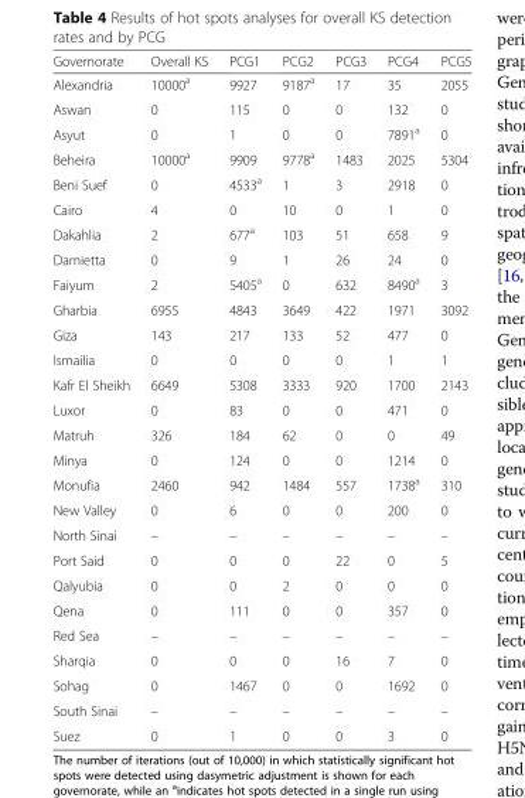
<table><thead><tr><td>Governorate</td><td>Overall KS</td><td>PCG1</td><td>PCG2</td><td>PCG3</td><td>PCG4</td><td>PCG5</td></tr></thead><tbody><tr><td>Alexandria</td><td>10000<sup>a</sup></td><td>9927</td><td>9187<sup>a</sup></td><td>17</td><td>35</td><td>2055</td></tr><tr><td>Aswan</td><td>0</td><td>115</td><td>0</td><td>0</td><td>132</td><td>0</td></tr><tr><td>Asyut</td><td>0</td><td>1</td><td>0</td><td>0</td><td>7891<sup>a</sup></td><td>0</td></tr><tr><td>Beheira</td><td>10000<sup>a</sup></td><td>9909</td><td>9778<sup>a</sup></td><td>1483</td><td>2025</td><td>5304</td></tr><tr><td>Beni Suef</td><td>0</td><td>4533<sup>a</sup></td><td>1</td><td>3</td><td>2918</td><td>0</td></tr><tr><td>Cairo</td><td>4</td><td>0</td><td>10</td><td>0</td><td>1</td><td>0</td></tr><tr><td>Dakahlia</td><td>2</td><td>677<sup>a</sup></td><td>103</td><td>51</td><td>658</td><td>9</td></tr><tr><td>Damietta</td><td>0</td><td>9</td><td>1</td><td>26</td><td>24</td><td>0</td></tr><tr><td>Faiyum</td><td>2</td><td>5405<sup>a</sup></td><td>0</td><td>632</td><td>8490<sup>a</sup></td><td>3</td></tr><tr><td>Gharbia</td><td>6955</td><td>4843</td><td>3649</td><td>422</td><td>1971</td><td>3092</td></tr><tr><td>Giza</td><td>143</td><td>217</td><td>133</td><td>52</td><td>477</td><td>0</td></tr><tr><td>Ismailia</td><td>0</td><td>0</td><td>0</td><td>0</td><td>1</td><td>1</td></tr><tr><td>Kafr El Sheikh</td><td>6649</td><td>5308</td><td>3333</td><td>920</td><td>1700</td><td>2143</td></tr><tr><td>Luxor</td><td>0</td><td>83</td><td>0</td><td>0</td><td>471</td><td>0</td></tr><tr><td>Matruh</td><td>326</td><td>184</td><td>62</td><td>0</td><td>0</td><td>49</td></tr><tr><td>Minya</td><td>0</td><td>124</td><td>0</td><td>0</td><td>1214</td><td>0</td></tr><tr><td>Monufia</td><td>2460</td><td>942</td><td>1484</td><td>557</td><td>1738<sup>a</sup></td><td>310</td></tr><tr><td>New Valley</td><td>0</td><td>6</td><td>0</td><td>0</td><td>200</td><td>0</td></tr><tr><td>North Sinai</td><td>–</td><td>–</td><td>–</td><td>–</td><td>–</td><td>–</td></tr><tr><td>Port Said</td><td>0</td><td>0</td><td>0</td><td>22</td><td>0</td><td>5</td></tr><tr><td>Qalyubia</td><td>0</td><td>0</td><td>2</td><td>0</td><td>0</td><td>0</td></tr><tr><td>Qena</td><td>0</td><td>111</td><td>0</td><td>0</td><td>357</td><td>0</td></tr><tr><td>Red Sea</td><td>–</td><td>–</td><td>–</td><td>–</td><td>–</td><td>–</td></tr><tr><td>Sharqia</td><td>0</td><td>0</td><td>0</td><td>16</td><td>7</td><td>0</td></tr><tr><td>Sohag</td><td>0</td><td>1467</td><td>0</td><td>0</td><td>1692</td><td>0</td></tr><tr><td>South Sinai</td><td>–</td><td>–</td><td>–</td><td>–</td><td>–</td><td>–</td></tr><tr><td>Suez</td><td>0</td><td>1</td><td>0</td><td>0</td><td>3</td><td>0</td></tr></tbody></table>